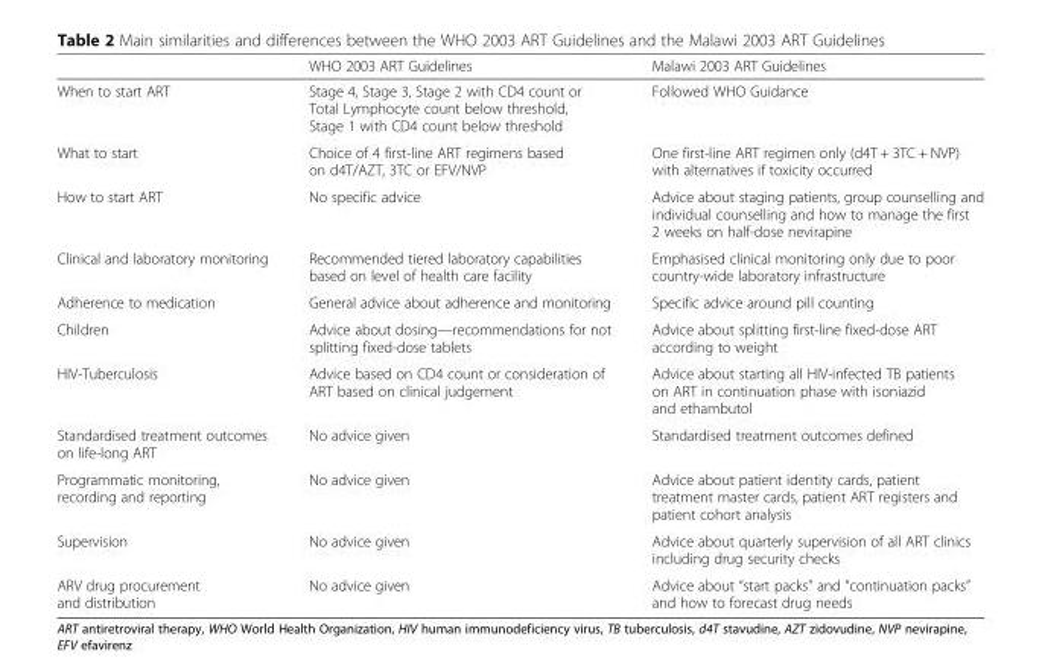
<table><thead><tr><td></td><td>WHO 2003 ART Guidelines</td><td>Malawi 2003 ART Guidelines</td></tr></thead><tbody><tr><td>When to start ART</td><td>Stage 4, Stage 3, Stage 2 with CD4 count or Total Lymphocyte count below threshold, Stage 1 with CD4 count below threshold</td><td>Followed WHO Guidance</td></tr><tr><td>What to start</td><td>Choice of 4 first-line ART regimens based on d4T/AZT, 3TC or EFV/NVP</td><td>One first-line ART regimen only (d4T + 3TC + NVP) with alternatives if toxicity occurred</td></tr><tr><td>How to start ART</td><td>No specific advice</td><td>Advice about staging patients, group counselling and individual counselling and how to manage the first 2 weeks on half-dose nevirapine</td></tr><tr><td>Clinical and laboratory monitoring</td><td>Recommended tiered laboratory capabilities based on level of health care facility</td><td>Emphasised clinical monitoring only due to poor country-wide laboratory infrastructure</td></tr><tr><td>Adherence to medication</td><td>General advice about adherence and monitoring</td><td>Specific advice around pill counting</td></tr><tr><td>Children</td><td>Advice about dosing—recommendations for not splitting fixed-dose tablets</td><td>Advice about splitting first-line fixed-dose ART according to weight</td></tr><tr><td>HIV-Tuberculosis</td><td>Advice based on CD4 count or consideration of ART based on clinical judgement</td><td>Advice about starting all HIV-infected TB patients on ART in continuation phase with isoniazid and ethambutol</td></tr><tr><td>Standardised treatment outcomes on life-long ART</td><td>No advice given</td><td>Standardised treatment outcomes defined</td></tr><tr><td>Programmatic monitoring, recording and reporting</td><td>No advice given</td><td>Advice about patient identity cards, patient treatment master cards, patient ART registers and patient cohort analysis</td></tr><tr><td>Supervision</td><td>No advice given</td><td>Advice about quarterly supervision of all ART clinics including drug security checks</td></tr><tr><td>ARV drug procurement and distribution</td><td>No advice given</td><td>Advice about “start packs” and “continuation packs” and how to forecast drug needs</td></tr></tbody></table>